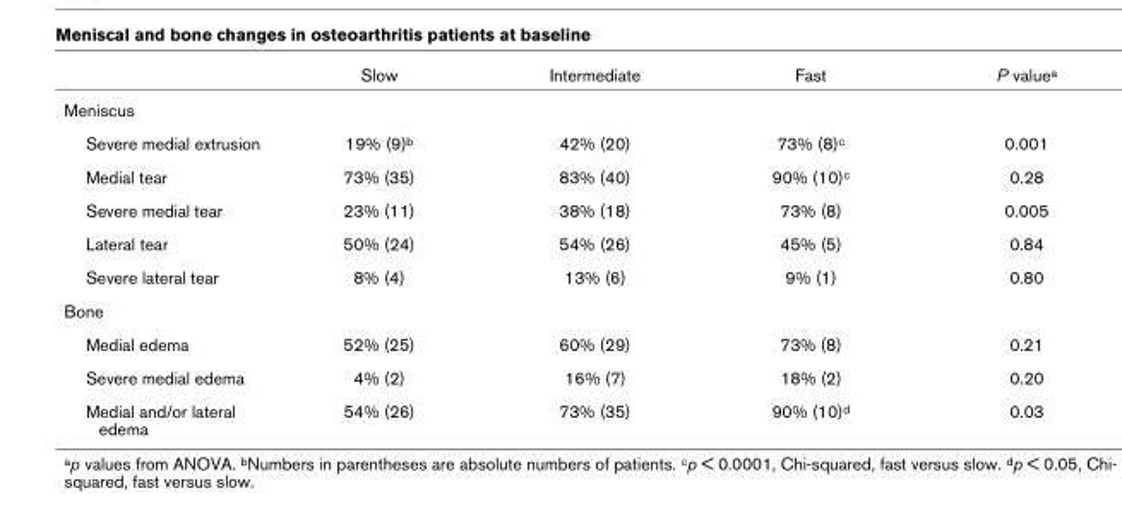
<table><thead><tr><td></td><td>Slow</td><td>Intermediate</td><td>Fast</td><td>P valuea</td></tr></thead><tbody><tr><td colspan="5">Meniscus</td></tr><tr><td>Severe medial extrusion</td><td>19% (9)b</td><td>42% (20)</td><td>73% (8)c</td><td>0.001</td></tr><tr><td>Medial tear</td><td>73% (35)</td><td>83% (40)</td><td>90% (10)c</td><td>0.28</td></tr><tr><td>Severe medial tear</td><td>23% (11)</td><td>38% (18)</td><td>73% (8)</td><td>0.005</td></tr><tr><td>Lateral tear</td><td>50% (24)</td><td>54% (26)</td><td>45% (5)</td><td>0.84</td></tr><tr><td>Severe lateral tear</td><td>8% (4)</td><td>13% (6)</td><td>9% (1)</td><td>0.80</td></tr><tr><td colspan="5">Bone</td></tr><tr><td>Medial edema</td><td>52% (25)</td><td>60% (29)</td><td>73% (8)</td><td>0.21</td></tr><tr><td>Severe medial edema</td><td>4% (2)</td><td>16% (7)</td><td>18% (2)</td><td>0.20</td></tr><tr><td>Medial and/or lateral edema</td><td>54% (26)</td><td>73% (35)</td><td>90% (10)d</td><td>0.03</td></tr></tbody></table>